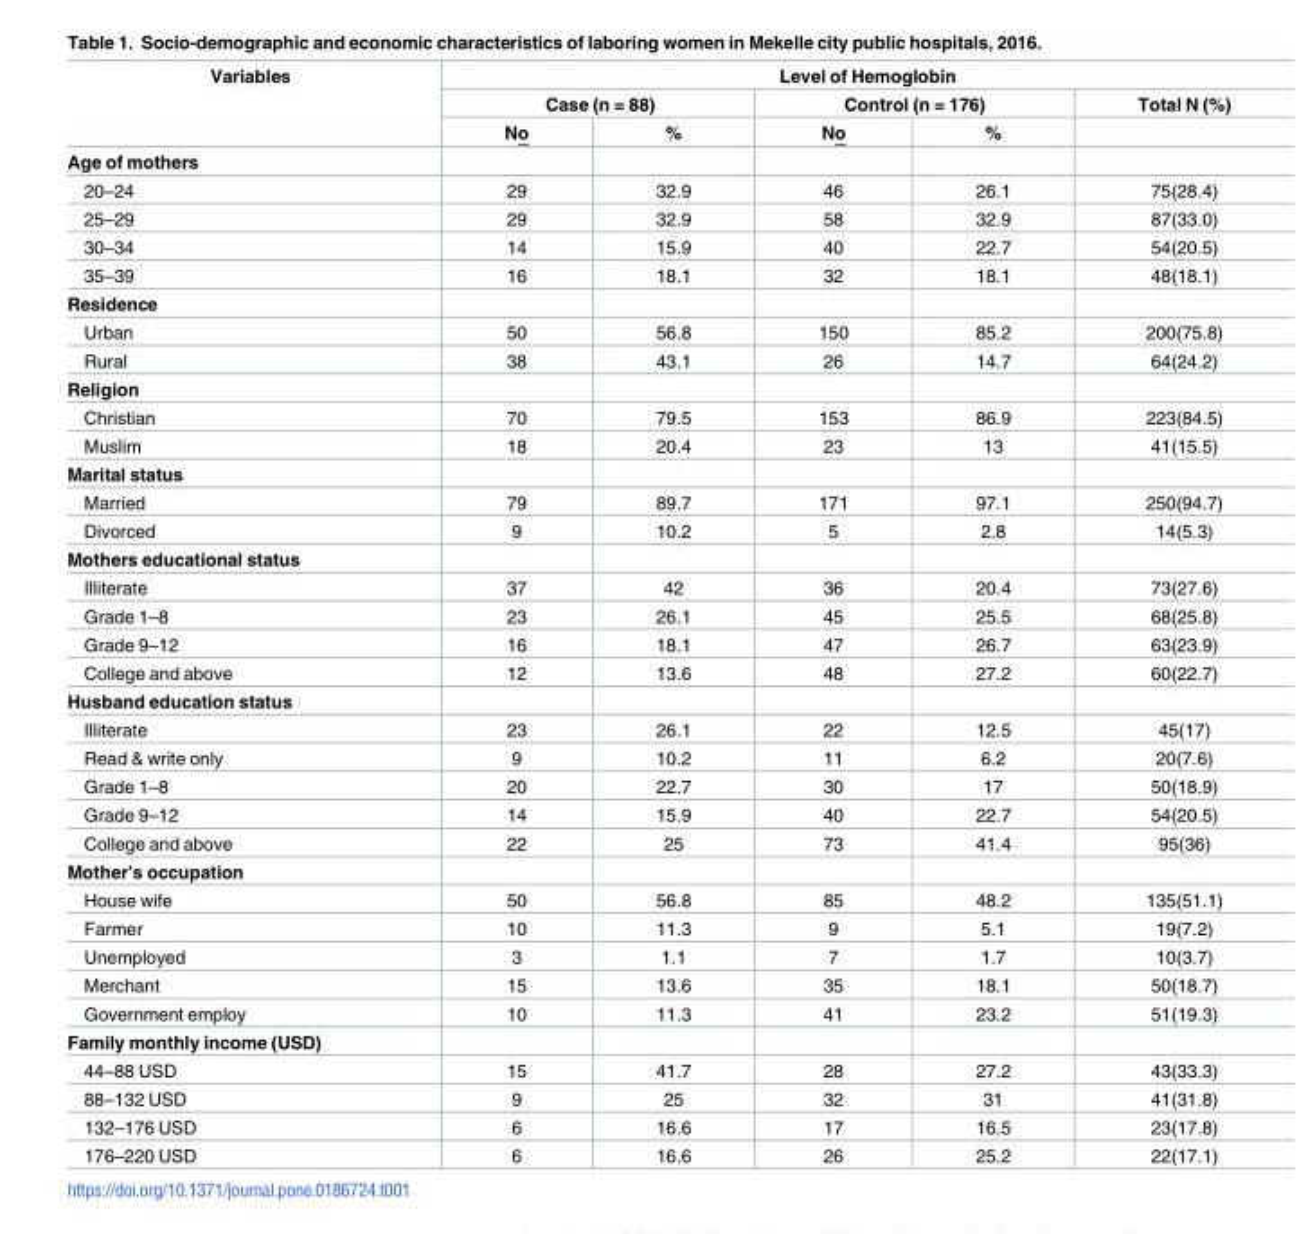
<table><thead><tr><td rowspan="3">Variables</td><td colspan="5">Level of Hemoglobin</td></tr><tr><td colspan="2">Case (n = 88)</td><td colspan="2">Control (n = 176)</td><td rowspan="2">Total N (%)</td></tr><tr><td>No</td><td>%</td><td>No</td><td>%</td></tr></thead><tbody><tr><td colspan="6">Age of mothers</td></tr><tr><td>20–24</td><td>29</td><td>32.9</td><td>46</td><td>26.1</td><td>75(28.4)</td></tr><tr><td>25–29</td><td>29</td><td>32.9</td><td>58</td><td>32.9</td><td>87(33.0)</td></tr><tr><td>30–34</td><td>14</td><td>15.9</td><td>40</td><td>22.7</td><td>54(20.5)</td></tr><tr><td>35–39</td><td>16</td><td>18.1</td><td>32</td><td>18.1</td><td>48(18.1)</td></tr><tr><td colspan="6">Residence</td></tr><tr><td>Urban</td><td>50</td><td>56.8</td><td>150</td><td>85.2</td><td>200(75.8)</td></tr><tr><td>Rural</td><td>38</td><td>43.1</td><td>26</td><td>14.7</td><td>64(24.2)</td></tr><tr><td colspan="6">Religion</td></tr><tr><td>Christian</td><td>70</td><td>79.5</td><td>153</td><td>86.9</td><td>223(84.5)</td></tr><tr><td>Muslim</td><td>18</td><td>20.4</td><td>23</td><td>13</td><td>41(15.5)</td></tr><tr><td colspan="6">Marital status</td></tr><tr><td>Married</td><td>79</td><td>89.7</td><td>171</td><td>97.1</td><td>250(94.7)</td></tr><tr><td>Divorced</td><td>9</td><td>10.2</td><td>5</td><td>2.8</td><td>14(5.3)</td></tr><tr><td colspan="6">Mothers educational status</td></tr><tr><td>Illiterate</td><td>37</td><td>42</td><td>36</td><td>20.4</td><td>73(27.6)</td></tr><tr><td>Grade 1–8</td><td>23</td><td>26.1</td><td>45</td><td>25.5</td><td>68(25.8)</td></tr><tr><td>Grade 9–12</td><td>16</td><td>18.1</td><td>47</td><td>26.7</td><td>63(23.9)</td></tr><tr><td>College and above</td><td>12</td><td>13.6</td><td>48</td><td>27.2</td><td>60(22.7)</td></tr><tr><td colspan="6">Husband education status</td></tr><tr><td>Illiterate</td><td>23</td><td>26.1</td><td>22</td><td>12.5</td><td>45(17)</td></tr><tr><td>Read &amp; write only</td><td>9</td><td>10.2</td><td>11</td><td>6.2</td><td>20(7.6)</td></tr><tr><td>Grade 1–8</td><td>20</td><td>22.7</td><td>30</td><td>17</td><td>50(18.9)</td></tr><tr><td>Grade 9–12</td><td>14</td><td>15.9</td><td>40</td><td>22.7</td><td>54(20.5)</td></tr><tr><td>College and above</td><td>22</td><td>25</td><td>73</td><td>41.4</td><td>95(36)</td></tr><tr><td colspan="6">Mother’s occupation</td></tr><tr><td>House wife</td><td>50</td><td>56.8</td><td>85</td><td>48.2</td><td>135(51.1)</td></tr><tr><td>Farmer</td><td>10</td><td>11.3</td><td>9</td><td>5.1</td><td>19(7.2)</td></tr><tr><td>Unemployed</td><td>3</td><td>1.1</td><td>7</td><td>1.7</td><td>10(3.7)</td></tr><tr><td>Merchant</td><td>15</td><td>13.6</td><td>35</td><td>18.1</td><td>50(18.7)</td></tr><tr><td>Government employ</td><td>10</td><td>11.3</td><td>41</td><td>23.2</td><td>51(19.3)</td></tr><tr><td colspan="6">Family monthly income (USD)</td></tr><tr><td>44–88 USD</td><td>15</td><td>41.7</td><td>28</td><td>27.2</td><td>43(33.3)</td></tr><tr><td>88–132 USD</td><td>9</td><td>25</td><td>32</td><td>31</td><td>41(31.8)</td></tr><tr><td>132–176 USD</td><td>6</td><td>16.6</td><td>17</td><td>16.5</td><td>23(17.8)</td></tr><tr><td>176–220 USD</td><td>6</td><td>16.6</td><td>26</td><td>25.2</td><td>22(17.1)</td></tr></tbody></table>